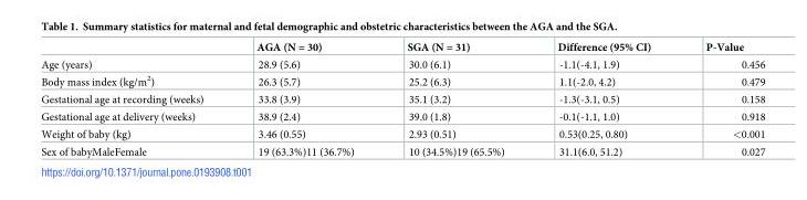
<table><thead><tr><td></td><td>AGA (N = 30)</td><td>SGA (N = 31)</td><td>Difference (95% CI)</td><td>P-Value</td></tr></thead><tbody><tr><td>Age (years)</td><td>28.9 (5.6)</td><td>30.0 (6.1)</td><td>-1.1(-4.1, 1.9)</td><td>0.456</td></tr><tr><td>Body mass index (kg/m<sup>2</sup>)</td><td>26.3 (5.7)</td><td>25.2 (6.3)</td><td>1.1(-2.0, 4.2)</td><td>0.479</td></tr><tr><td>Gestational age at recording (weeks)</td><td>33.8 (3.9)</td><td>35.1 (3.2)</td><td>-1.3(-3.1, 0.5)</td><td>0.158</td></tr><tr><td>Gestational age at delivery (weeks)</td><td>38.9 (2.4)</td><td>39.0 (1.8)</td><td>-0.1(-1.1, 1.0)</td><td>0.918</td></tr><tr><td>Weight of baby (kg)</td><td>3.46 (0.55)</td><td>2.93 (0.51)</td><td>0.53(0.25, 0.80)</td><td>&lt;0.001</td></tr><tr><td>Sex of babyMaleFemale</td><td>19 (63.3%)11 (36.7%)</td><td>10 (34.5%)19 (65.5%)</td><td>31.1(6.0, 51.2)</td><td>0.027</td></tr></tbody></table>